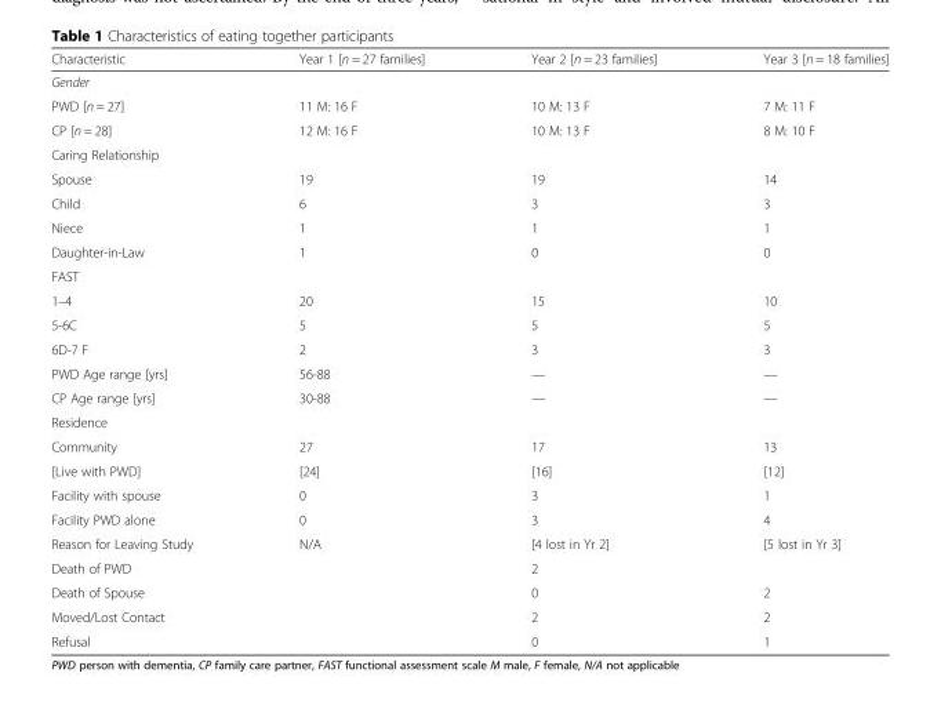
<table><thead><tr><td>Characteristic</td><td>Year 1 [n = 27 families]</td><td>Year 2 [n = 23 families]</td><td>Year 3 [n = 18 families]</td></tr></thead><tbody><tr><td colspan="4">Gender</td></tr><tr><td>PWD [n = 27]</td><td>11 M: 16 F</td><td>10 M: 13 F</td><td>7 M: 11 F</td></tr><tr><td>CP [n = 28]</td><td>12 M: 16 F</td><td>10 M: 13 F</td><td>8 M: 10 F</td></tr><tr><td colspan="4">Caring Relationship</td></tr><tr><td>Spouse</td><td>19</td><td>19</td><td>14</td></tr><tr><td>Child</td><td>6</td><td>3</td><td>3</td></tr><tr><td>Niece</td><td>1</td><td>1</td><td>1</td></tr><tr><td>Daughter-in-Law</td><td>1</td><td>0</td><td>0</td></tr><tr><td colspan="4">FAST</td></tr><tr><td>1–4</td><td>20</td><td>15</td><td>10</td></tr><tr><td>5-6C</td><td>5</td><td>5</td><td>5</td></tr><tr><td>6D-7 F</td><td>2</td><td>3</td><td>3</td></tr><tr><td>PWD Age range [yrs]</td><td>56-88</td><td>—</td><td>—</td></tr><tr><td>CP Age range [yrs]</td><td>30-88</td><td>—</td><td>—</td></tr><tr><td colspan="4">Residence</td></tr><tr><td>Community</td><td>27</td><td>17</td><td>13</td></tr><tr><td>[Live with PWD]</td><td>[24]</td><td>[16]</td><td>[12]</td></tr><tr><td>Facility with spouse</td><td>0</td><td>3</td><td>1</td></tr><tr><td>Facility PWD alone</td><td>0</td><td>3</td><td>4</td></tr><tr><td>Reason for Leaving Study</td><td>N/A</td><td>[4 lost in Yr 2]</td><td>[5 lost in Yr 3]</td></tr><tr><td>Death of PWD</td><td></td><td>2</td><td></td></tr><tr><td>Death of Spouse</td><td></td><td>0</td><td>2</td></tr><tr><td>Moved/Lost Contact</td><td></td><td>2</td><td>2</td></tr><tr><td>Refusal</td><td></td><td>0</td><td>1</td></tr></tbody></table>